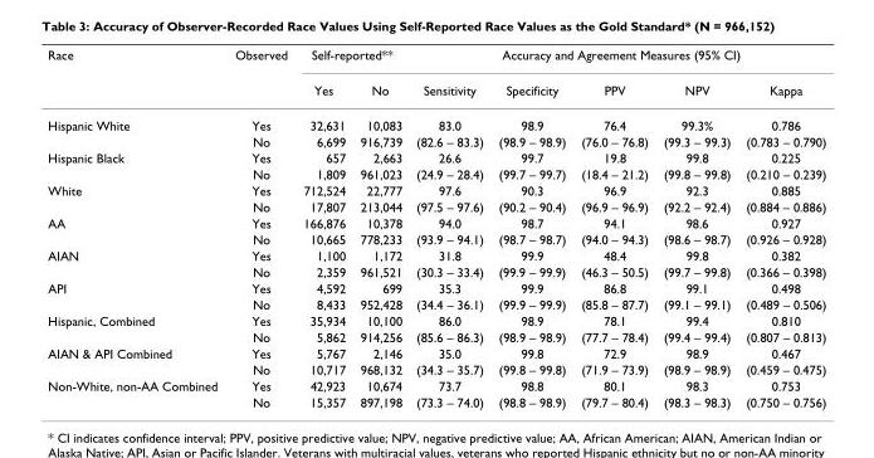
<table><thead><tr><td rowspan="2">Race</td><td rowspan="2">Observed</td><td colspan="2">Self-reported**</td><td colspan="5">Accuracy and Agreement Measures (95% CI)</td></tr><tr><td>Yes</td><td>No</td><td>Sensitivity</td><td>Specificity</td><td>PPV</td><td>NPV</td><td>Kappa</td></tr></thead><tbody><tr><td rowspan="2">Hispanic White</td><td>Yes</td><td>32,631</td><td>10,083</td><td>83.0</td><td>98.9</td><td>76.4</td><td>99.3%</td><td>0.786</td></tr><tr><td>No</td><td>6,699</td><td>916,739</td><td>(82.6 – 83.3)</td><td>(98.9 – 98.9)</td><td>(76.0 – 76.8)</td><td>(99.3 – 99.3)</td><td>(0.783 – 0.790)</td></tr><tr><td rowspan="2">Hispanic Black</td><td>Yes</td><td>657</td><td>2,663</td><td>26.6</td><td>99.7</td><td>19.8</td><td>99.8</td><td>0.225</td></tr><tr><td>No</td><td>1,809</td><td>961,023</td><td>(24.9 – 28.4)</td><td>(99.7 – 99.7)</td><td>(18.4 – 21.2)</td><td>(99.8 – 99.8)</td><td>(0.210 – 0.239)</td></tr><tr><td rowspan="2">White</td><td>Yes</td><td>712,524</td><td>22,777</td><td>97.6</td><td>90.3</td><td>96.9</td><td>92.3</td><td>0.885</td></tr><tr><td>No</td><td>17,807</td><td>213,044</td><td>(97.5 – 97.6)</td><td>(90.2 – 90.4)</td><td>(96.9 – 96.9)</td><td>(92.2 – 92.4)</td><td>(0.884 – 0.886)</td></tr><tr><td rowspan="2">AA</td><td>Yes</td><td>166,876</td><td>10,378</td><td>94.0</td><td>98.7</td><td>94.1</td><td>98.6</td><td>0.927</td></tr><tr><td>No</td><td>10,665</td><td>778,233</td><td>(93.9 – 94.1)</td><td>(98.7 – 98.7)</td><td>(94.0 – 94.3)</td><td>(98.6 – 98.7)</td><td>(0.926 – 0.928)</td></tr><tr><td rowspan="2">AIAN</td><td>Yes</td><td>1,100</td><td>1,172</td><td>31.8</td><td>99.9</td><td>48.4</td><td>99.8</td><td>0.382</td></tr><tr><td>No</td><td>2,359</td><td>961,521</td><td>(30.3 – 33.4)</td><td>(99.9 – 99.9)</td><td>(46.3 – 50.5)</td><td>(99.7 – 99.8)</td><td>(0.366 – 0.398)</td></tr><tr><td rowspan="2">API</td><td>Yes</td><td>4,592</td><td>699</td><td>35.3</td><td>99.9</td><td>86.8</td><td>99.1</td><td>0.498</td></tr><tr><td>No</td><td>8,433</td><td>952,428</td><td>(34.4 – 36.1)</td><td>(99.9 – 99.9)</td><td>(85.8 – 87.7)</td><td>(99.1 – 99.1)</td><td>(0.489 – 0.506)</td></tr><tr><td rowspan="2">Hispanic, Combined</td><td>Yes</td><td>35,934</td><td>10,100</td><td>86.0</td><td>98.9</td><td>78.1</td><td>99.4</td><td>0.810</td></tr><tr><td>No</td><td>5,862</td><td>914,256</td><td>(85.6 – 86.3)</td><td>(98.9 – 98.9)</td><td>(77.7 – 78.4)</td><td>(99.4 – 99.4)</td><td>(0.807 – 0.813)</td></tr><tr><td rowspan="2">AIAN &amp; API Combined</td><td>Yes</td><td>5,767</td><td>2,146</td><td>35.0</td><td>99.8</td><td>72.9</td><td>98.9</td><td>0.467</td></tr><tr><td>No</td><td>10,717</td><td>968,132</td><td>(34.3 – 35.7)</td><td>(99.8 – 99.8)</td><td>(71.9 – 73.9)</td><td>(98.9 – 98.9)</td><td>(0.459 – 0.475)</td></tr><tr><td rowspan="2">Non-White, non-AA Combined</td><td>Yes</td><td>42,923</td><td>10,674</td><td>73.7</td><td>98.8</td><td>80.1</td><td>98.3</td><td>0.753</td></tr><tr><td>No</td><td>15,357</td><td>897,198</td><td>(73.3 – 74.0)</td><td>(98.8 – 98.9)</td><td>(79.7 – 80.4)</td><td>(98.3 – 98.3)</td><td>(0.750 – 0.756)</td></tr></tbody></table>